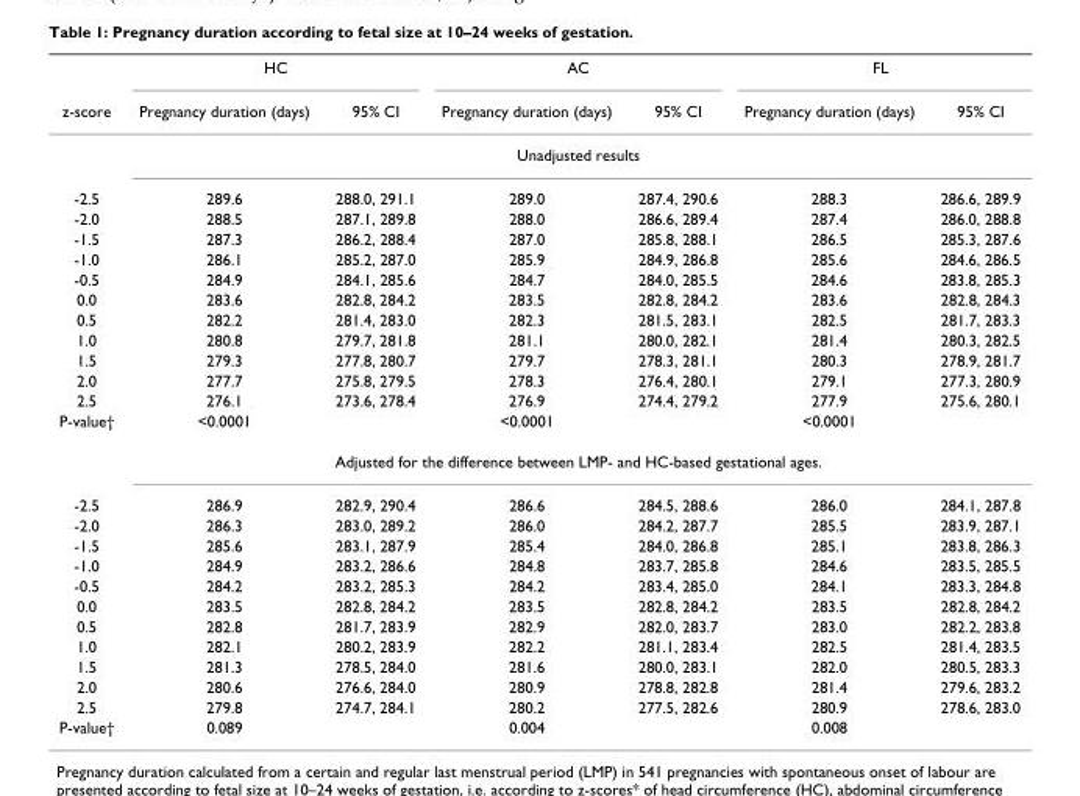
<table><thead><tr><td rowspan="2">z-score</td><td colspan="2">HC</td><td colspan="2">AC</td><td colspan="2">FL</td></tr><tr><td>Pregnancy duration (days)</td><td>95% CI</td><td>Pregnancy duration (days)</td><td>95% CI</td><td>Pregnancy duration (days)</td><td>95% CI</td></tr></thead><tbody><tr><td></td><td colspan="6">Unadjusted results</td></tr><tr><td>-2.5</td><td>289.6</td><td>288.0, 291.1</td><td>289.0</td><td>287.4, 290.6</td><td>288.3</td><td>286.6, 289.9</td></tr><tr><td>-2.0</td><td>288.5</td><td>287.1, 289.8</td><td>288.0</td><td>286.6, 289.4</td><td>287.4</td><td>286.0, 288.8</td></tr><tr><td>-1.5</td><td>287.3</td><td>286.2, 288.4</td><td>287.0</td><td>285.8, 288.1</td><td>286.5</td><td>285.3, 287.6</td></tr><tr><td>-1.0</td><td>286.1</td><td>285.2, 287.0</td><td>285.9</td><td>284.9, 286.8</td><td>285.6</td><td>284.6, 286.5</td></tr><tr><td>-0.5</td><td>284.9</td><td>284.1, 285.6</td><td>284.7</td><td>284.0, 285.5</td><td>284.6</td><td>283.8, 285.3</td></tr><tr><td>0.0</td><td>283.6</td><td>282.8, 284.2</td><td>283.5</td><td>282.8, 284.2</td><td>283.6</td><td>282.8, 284.3</td></tr><tr><td>0.5</td><td>282.2</td><td>281.4, 283.0</td><td>282.3</td><td>281.5, 283.1</td><td>282.5</td><td>281.7, 283.3</td></tr><tr><td>1.0</td><td>280.8</td><td>279.7, 281.8</td><td>281.1</td><td>280.0, 282.1</td><td>281.4</td><td>280.3, 282.5</td></tr><tr><td>1.5</td><td>279.3</td><td>277.8, 280.7</td><td>279.7</td><td>278.3, 281.1</td><td>280.3</td><td>278.9, 281.7</td></tr><tr><td>2.0</td><td>277.7</td><td>275.8, 279.5</td><td>278.3</td><td>276.4, 280.1</td><td>279.1</td><td>277.3, 280.9</td></tr><tr><td>2.5</td><td>276.1</td><td>273.6, 278.4</td><td>276.9</td><td>274.4, 279.2</td><td>277.9</td><td>275.6, 280.1</td></tr><tr><td rowspan="2">P-value†</td><td>&lt;0.0001</td><td></td><td>&lt;0.0001</td><td></td><td>&lt;0.0001</td><td></td></tr><tr><td colspan="6">Adjusted for the difference between LMP- and HC-based gestational ages.</td></tr><tr><td>-2.5</td><td>286.9</td><td>282.9, 290.4</td><td>286.6</td><td>284.5, 288.6</td><td>286.0</td><td>284.1, 287.8</td></tr><tr><td>-2.0</td><td>286.3</td><td>283.0, 289.2</td><td>286.0</td><td>284.2, 287.7</td><td>285.5</td><td>283.9, 287.1</td></tr><tr><td>-1.5</td><td>285.6</td><td>283.1, 287.9</td><td>285.4</td><td>284.0, 286.8</td><td>285.1</td><td>283.8, 286.3</td></tr><tr><td>-1.0</td><td>284.9</td><td>283.2, 286.6</td><td>284.8</td><td>283.7, 285.8</td><td>284.6</td><td>283.5, 285.5</td></tr><tr><td>-0.5</td><td>284.2</td><td>283.2, 285.3</td><td>284.2</td><td>283.4, 285.0</td><td>284.1</td><td>283.3, 284.8</td></tr><tr><td>0.0</td><td>283.5</td><td>282.8, 284.2</td><td>283.5</td><td>282.8, 284.2</td><td>283.5</td><td>282.8, 284.2</td></tr><tr><td>0.5</td><td>282.8</td><td>281.7, 283.9</td><td>282.9</td><td>282.0, 283.7</td><td>283.0</td><td>282.2, 283.8</td></tr><tr><td>1.0</td><td>282.1</td><td>280.2, 283.9</td><td>282.2</td><td>281.1, 283.4</td><td>282.5</td><td>281.4, 283.5</td></tr><tr><td>1.5</td><td>281.3</td><td>278.5, 284.0</td><td>281.6</td><td>280.0, 283.1</td><td>282.0</td><td>280.5, 283.3</td></tr><tr><td>2.0</td><td>280.6</td><td>276.6, 284.0</td><td>280.9</td><td>278.8, 282.8</td><td>281.4</td><td>279.6, 283.2</td></tr><tr><td>2.5</td><td>279.8</td><td>274.7, 284.1</td><td>280.2</td><td>277.5, 282.6</td><td>280.9</td><td>278.6, 283.0</td></tr><tr><td>P-value†</td><td>0.089</td><td></td><td>0.004</td><td></td><td>0.008</td><td></td></tr></tbody></table>